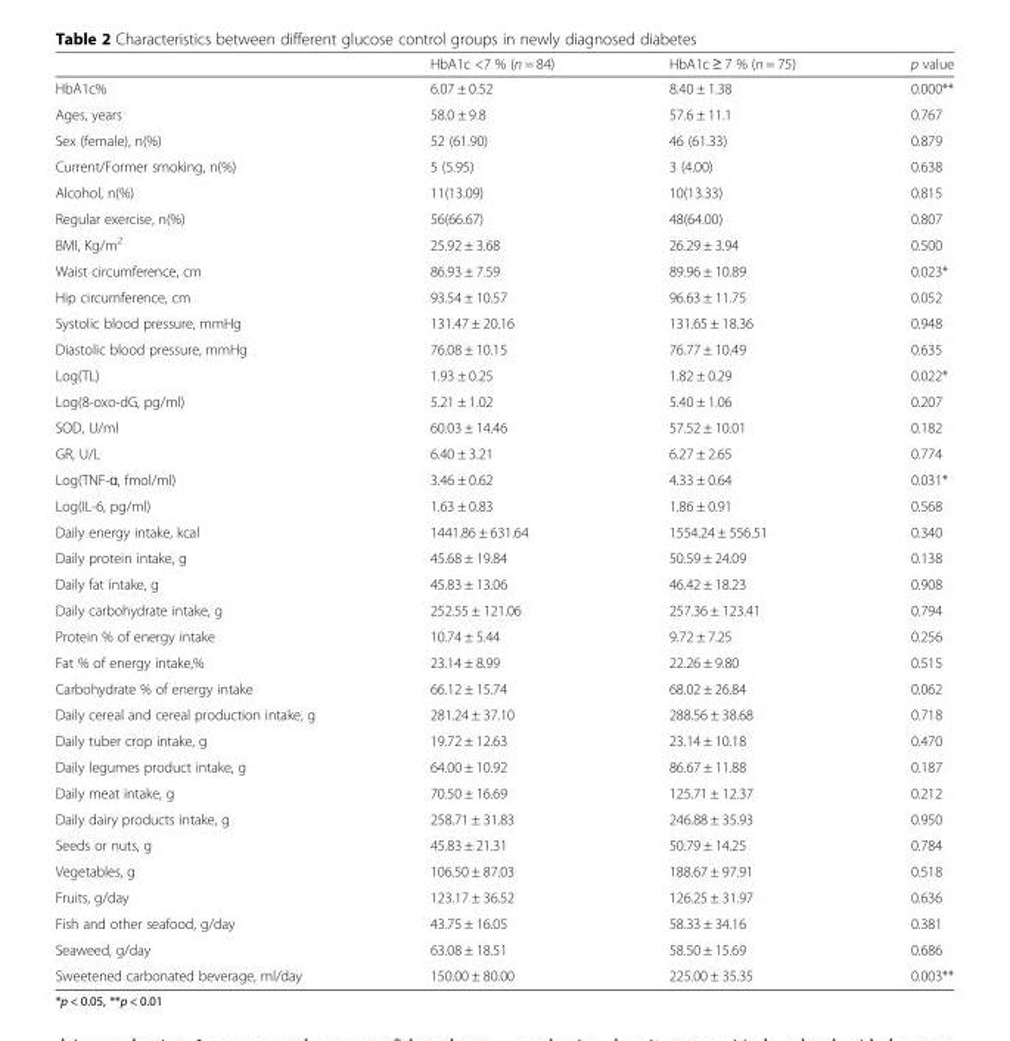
<table><thead><tr><td></td><td>HbA1c &lt;7 % (n = 84)</td><td>HbA1c ≥ 7 % (n = 75)</td><td>p value</td></tr></thead><tbody><tr><td>HbA1c%</td><td>6.07 ± 0.52</td><td>8.40 ± 1.38</td><td>0.000**</td></tr><tr><td>Ages, years</td><td>58.0 ± 9.8</td><td>57.6 ± 11.1</td><td>0.767</td></tr><tr><td>Sex (female), n(%)</td><td>52 (61.90)</td><td>46 (61.33)</td><td>0.879</td></tr><tr><td>Current/Former smoking, n(%)</td><td>5 (5.95)</td><td>3 (4.00)</td><td>0.638</td></tr><tr><td>Alcohol, n(%)</td><td>11(13.09)</td><td>10(13.33)</td><td>0.815</td></tr><tr><td>Regular exercise, n(%)</td><td>56(66.67)</td><td>48(64.00)</td><td>0.807</td></tr><tr><td>BMI, Kg/m<sup>2</sup></td><td>25.92 ± 3.68</td><td>26.29 ± 3.94</td><td>0.500</td></tr><tr><td>Waist circumference, cm</td><td>86.93 ± 7.59</td><td>89.96 ± 10.89</td><td>0.023*</td></tr><tr><td>Hip circumference, cm</td><td>93.54 ± 10.57</td><td>96.63 ± 11.75</td><td>0.052</td></tr><tr><td>Systolic blood pressure, mmHg</td><td>131.47 ± 20.16</td><td>131.65 ± 18.36</td><td>0.948</td></tr><tr><td>Diastolic blood pressure, mmHg</td><td>76.08 ± 10.15</td><td>76.77 ± 10.49</td><td>0.635</td></tr><tr><td>Log(TL)</td><td>1.93 ± 0.25</td><td>1.82 ± 0.29</td><td>0.022*</td></tr><tr><td>Log(8-oxo-dG, pg/ml)</td><td>5.21 ± 1.02</td><td>5.40 ± 1.06</td><td>0.207</td></tr><tr><td>SOD, U/ml</td><td>60.03 ± 14.46</td><td>57.52 ± 10.01</td><td>0.182</td></tr><tr><td>GR, U/L</td><td>6.40 ± 3.21</td><td>6.27 ± 2.65</td><td>0.774</td></tr><tr><td>Log(TNF-ɑ, fmol/ml)</td><td>3.46 ± 0.62</td><td>4.33 ± 0.64</td><td>0.031*</td></tr><tr><td>Log(IL-6, pg/ml)</td><td>1.63 ± 0.83</td><td>1.86 ± 0.91</td><td>0.568</td></tr><tr><td>Daily energy intake, kcal</td><td>1441.86 ± 631.64</td><td>1554.24 ± 556.51</td><td>0.340</td></tr><tr><td>Daily protein intake, g</td><td>45.68 ± 19.84</td><td>50.59 ± 24.09</td><td>0.138</td></tr><tr><td>Daily fat intake, g</td><td>45.83 ± 13.06</td><td>46.42 ± 18.23</td><td>0.908</td></tr><tr><td>Daily carbohydrate intake, g</td><td>252.55 ± 121.06</td><td>257.36 ± 123.41</td><td>0.794</td></tr><tr><td>Protein % of energy intake</td><td>10.74 ± 5.44</td><td>9.72 ± 7.25</td><td>0.256</td></tr><tr><td>Fat % of energy intake,%</td><td>23.14 ± 8.99</td><td>22.26 ± 9.80</td><td>0.515</td></tr><tr><td>Carbohydrate % of energy intake</td><td>66.12 ± 15.74</td><td>68.02 ± 26.84</td><td>0.062</td></tr><tr><td>Daily cereal and cereal production intake, g</td><td>281.24 ± 37.10</td><td>288.56 ± 38.68</td><td>0.718</td></tr><tr><td>Daily tuber crop intake, g</td><td>19.72 ± 12.63</td><td>23.14 ± 10.18</td><td>0.470</td></tr><tr><td>Daily legumes product intake, g</td><td>64.00 ± 10.92</td><td>86.67 ± 11.88</td><td>0.187</td></tr><tr><td>Daily meat intake, g</td><td>70.50 ± 16.69</td><td>125.71 ± 12.37</td><td>0.212</td></tr><tr><td>Daily dairy products intake, g</td><td>258.71 ± 31.83</td><td>246.88 ± 35.93</td><td>0.950</td></tr><tr><td>Seeds or nuts, g</td><td>45.83 ± 21.31</td><td>50.79 ± 14.25</td><td>0.784</td></tr><tr><td>Vegetables, g</td><td>106.50 ± 87.03</td><td>188.67 ± 97.91</td><td>0.518</td></tr><tr><td>Fruits, g/day</td><td>123.17 ± 36.52</td><td>126.25 ± 31.97</td><td>0.636</td></tr><tr><td>Fish and other seafood, g/day</td><td>43.75 ± 16.05</td><td>58.33 ± 34.16</td><td>0.381</td></tr><tr><td>Seaweed, g/day</td><td>63.08 ± 18.51</td><td>58.50 ± 15.69</td><td>0.686</td></tr><tr><td>Sweetened carbonated beverage, ml/day</td><td>150.00 ± 80.00</td><td>225.00 ± 35.35</td><td>0.003**</td></tr></tbody></table>